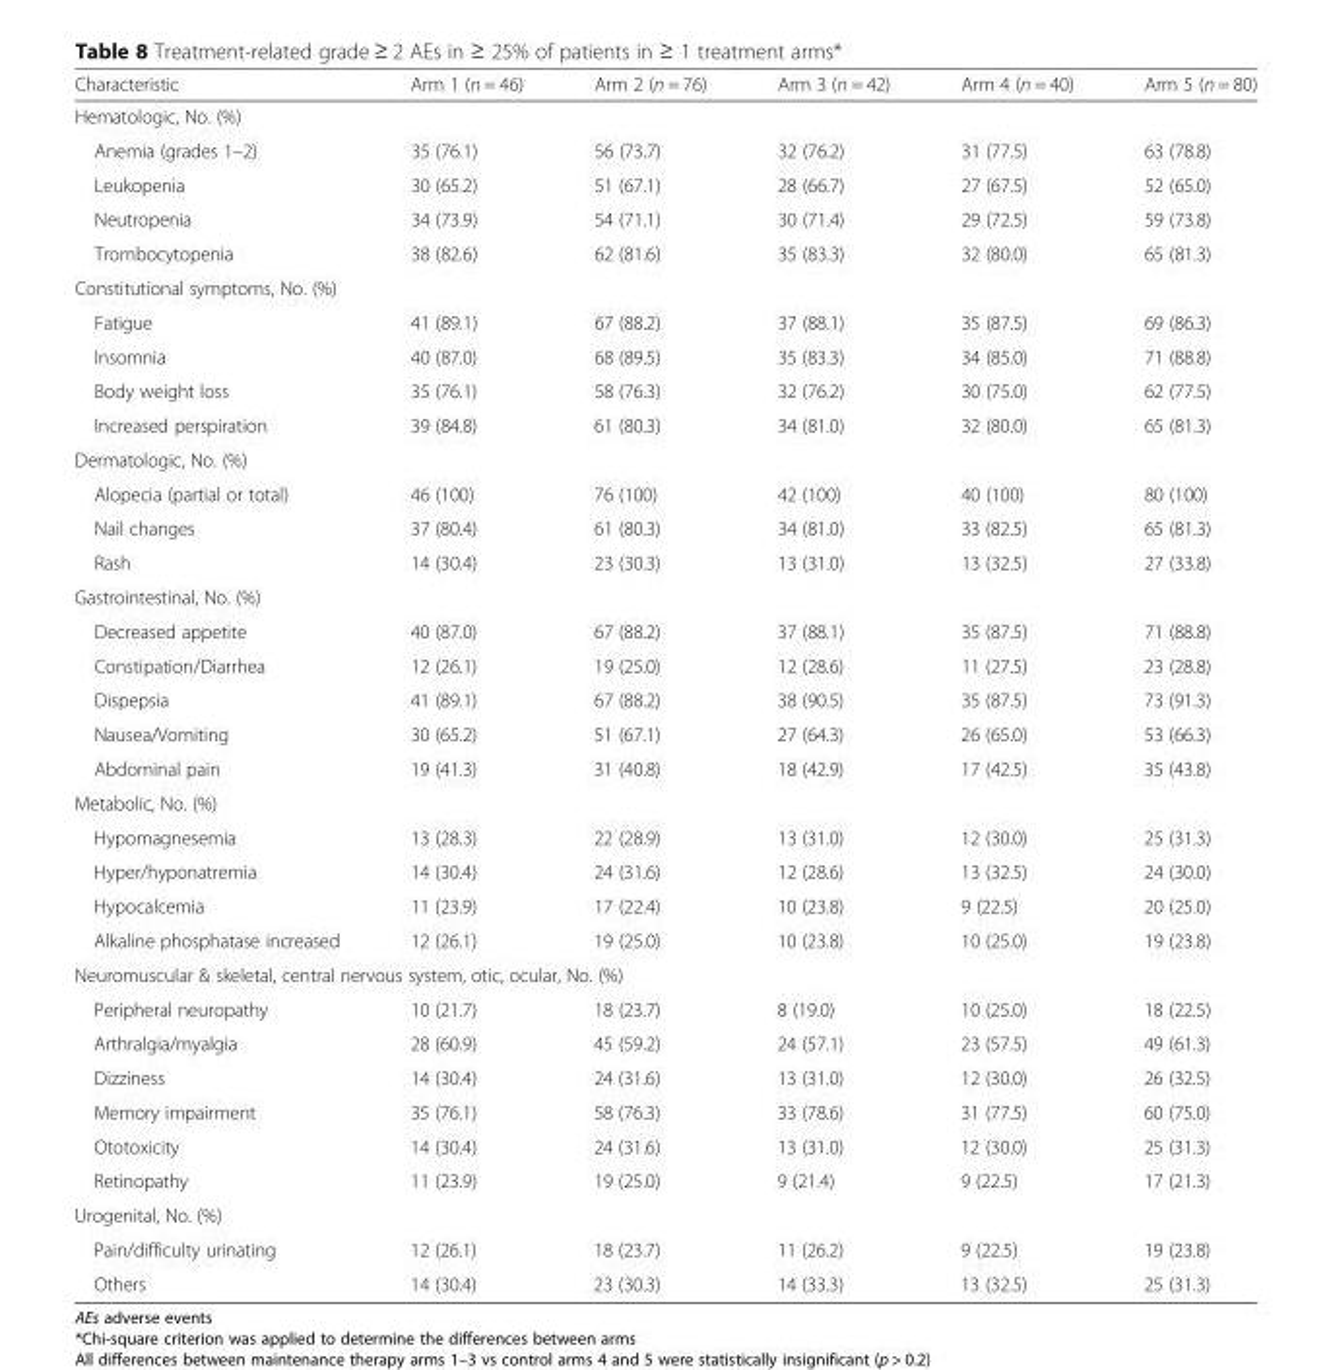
<table><thead><tr><td>Characteristic</td><td>Arm 1 (n = 46)</td><td>Arm 2 (n = 76)</td><td>Arm 3 (n = 42)</td><td>Arm 4 (n = 40)</td><td>Arm 5 (n = 80)</td></tr></thead><tbody><tr><td colspan="6">Hematologic, No. (%)</td></tr><tr><td>Anemia (grades 1–2)</td><td>35 (76.1)</td><td>56 (73.7)</td><td>32 (76.2)</td><td>31 (77.5)</td><td>63 (78.8)</td></tr><tr><td>Leukopenia</td><td>30 (65.2)</td><td>51 (67.1)</td><td>28 (66.7)</td><td>27 (67.5)</td><td>52 (65.0)</td></tr><tr><td>Neutropenia</td><td>34 (73.9)</td><td>54 (71.1)</td><td>30 (71.4)</td><td>29 (72.5)</td><td>59 (73.8)</td></tr><tr><td>Trombocytopenia</td><td>38 (82.6)</td><td>62 (81.6)</td><td>35 (83.3)</td><td>32 (80.0)</td><td>65 (81.3)</td></tr><tr><td colspan="6">Constitutional symptoms, No. (%)</td></tr><tr><td>Fatigue</td><td>41 (89.1)</td><td>67 (88.2)</td><td>37 (88.1)</td><td>35 (87.5)</td><td>69 (86.3)</td></tr><tr><td>Insomnia</td><td>40 (87.0)</td><td>68 (89.5)</td><td>35 (83.3)</td><td>34 (85.0)</td><td>71 (88.8)</td></tr><tr><td>Body weight loss</td><td>35 (76.1)</td><td>58 (76.3)</td><td>32 (76.2)</td><td>30 (75.0)</td><td>62 (77.5)</td></tr><tr><td>Increased perspiration</td><td>39 (84.8)</td><td>61 (80.3)</td><td>34 (81.0)</td><td>32 (80.0)</td><td>65 (81.3)</td></tr><tr><td colspan="6">Dermatologic, No. (%)</td></tr><tr><td>Alopecia (partial or total)</td><td>46 (100)</td><td>76 (100)</td><td>42 (100)</td><td>40 (100)</td><td>80 (100)</td></tr><tr><td>Nail changes</td><td>37 (80.4)</td><td>61 (80.3)</td><td>34 (81.0)</td><td>33 (82.5)</td><td>65 (81.3)</td></tr><tr><td>Rash</td><td>14 (30.4)</td><td>23 (30.3)</td><td>13 (31.0)</td><td>13 (32.5)</td><td>27 (33.8)</td></tr><tr><td colspan="6">Gastrointestinal, No. (%)</td></tr><tr><td>Decreased appetite</td><td>40 (87.0)</td><td>67 (88.2)</td><td>37 (88.1)</td><td>35 (87.5)</td><td>71 (88.8)</td></tr><tr><td>Constipation/Diarrhea</td><td>12 (26.1)</td><td>19 (25.0)</td><td>12 (28.6)</td><td>11 (27.5)</td><td>23 (28.8)</td></tr><tr><td>Dispepsia</td><td>41 (89.1)</td><td>67 (88.2)</td><td>38 (90.5)</td><td>35 (87.5)</td><td>73 (91.3)</td></tr><tr><td>Nausea/Vomiting</td><td>30 (65.2)</td><td>51 (67.1)</td><td>27 (64.3)</td><td>26 (65.0)</td><td>53 (66.3)</td></tr><tr><td>Abdominal pain</td><td>19 (41.3)</td><td>31 (40.8)</td><td>18 (42.9)</td><td>17 (42.5)</td><td>35 (43.8)</td></tr><tr><td colspan="6">Metabolic, No. (%)</td></tr><tr><td>Hypomagnesemia</td><td>13 (28.3)</td><td>22 (28.9)</td><td>13 (31.0)</td><td>12 (30.0)</td><td>25 (31.3)</td></tr><tr><td>Hyper/hyponatremia</td><td>14 (30.4)</td><td>24 (31.6)</td><td>12 (28.6)</td><td>13 (32.5)</td><td>24 (30.0)</td></tr><tr><td>Hypocalcemia</td><td>11 (23.9)</td><td>17 (22.4)</td><td>10 (23.8)</td><td>9 (22.5)</td><td>20 (25.0)</td></tr><tr><td>Alkaline phosphatase increased</td><td>12 (26.1)</td><td>19 (25.0)</td><td>10 (23.8)</td><td>10 (25.0)</td><td>19 (23.8)</td></tr><tr><td colspan="6">Neuromuscular &amp; skeletal, central nervous system, otic, ocular, No. (%)</td></tr><tr><td>Peripheral neuropathy</td><td>10 (21.7)</td><td>18 (23.7)</td><td>8 (19.0)</td><td>10 (25.0)</td><td>18 (22.5)</td></tr><tr><td>Arthralgia/myalgia</td><td>28 (60.9)</td><td>45 (59.2)</td><td>24 (57.1)</td><td>23 (57.5)</td><td>49 (61.3)</td></tr><tr><td>Dizziness</td><td>14 (30.4)</td><td>24 (31.6)</td><td>13 (31.0)</td><td>12 (30.0)</td><td>26 (32.5)</td></tr><tr><td>Memory impairment</td><td>35 (76.1)</td><td>58 (76.3)</td><td>33 (78.6)</td><td>31 (77.5)</td><td>60 (75.0)</td></tr><tr><td>Ototoxicity</td><td>14 (30.4)</td><td>24 (31.6)</td><td>13 (31.0)</td><td>12 (30.0)</td><td>25 (31.3)</td></tr><tr><td>Retinopathy</td><td>11 (23.9)</td><td>19 (25.0)</td><td>9 (21.4)</td><td>9 (22.5)</td><td>17 (21.3)</td></tr><tr><td colspan="6">Urogenital, No. (%)</td></tr><tr><td>Pain/difficulty urinating</td><td>12 (26.1)</td><td>18 (23.7)</td><td>11 (26.2)</td><td>9 (22.5)</td><td>19 (23.8)</td></tr><tr><td>Others</td><td>14 (30.4)</td><td>23 (30.3)</td><td>14 (33.3)</td><td>13 (32.5)</td><td>25 (31.3)</td></tr></tbody></table>